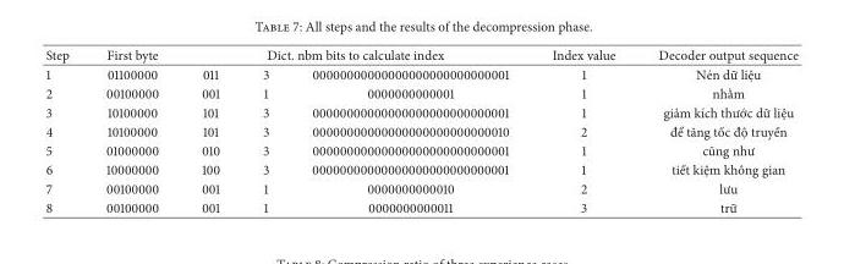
<table><thead><tr><td rowspan="2">Step 1</td><td rowspan="2">First byte 01100000</td><td colspan="3">Dict. nbm bits to calculate index</td><td rowspan="2">Index value 1</td><td rowspan="2">Decoder output sequence N´en dữ liệu</td></tr><tr><td>011</td><td>3</td><td>00000000000000000000000000001</td></tr></thead><tbody><tr><td>2</td><td>00100000</td><td>001</td><td>1</td><td>0000000000001</td><td>1</td><td>nhằm</td></tr><tr><td>3</td><td>10100000</td><td>101</td><td>3</td><td>00000000000000000000000000001</td><td>1</td><td>giảm k´ıch thước dữ liệu</td></tr><tr><td>4</td><td>10100000</td><td>101</td><td>3</td><td>00000000000000000000000000010</td><td>2</td><td>để t˘ang tốc độ truyền</td></tr><tr><td>5</td><td>01000000</td><td>010</td><td>3</td><td>00000000000000000000000000001</td><td>1</td><td>c˜ung như</td></tr><tr><td>6</td><td>10000000</td><td>100</td><td>3</td><td>00000000000000000000000000001</td><td>1</td><td>tiết kiệm khˆong gian</td></tr><tr><td>7</td><td>00100000</td><td>001</td><td>1</td><td>0000000000010</td><td>2</td><td>lưu</td></tr><tr><td>8</td><td>00100000</td><td>001</td><td>1</td><td>0000000000011</td><td>3</td><td>trữ</td></tr></tbody></table>